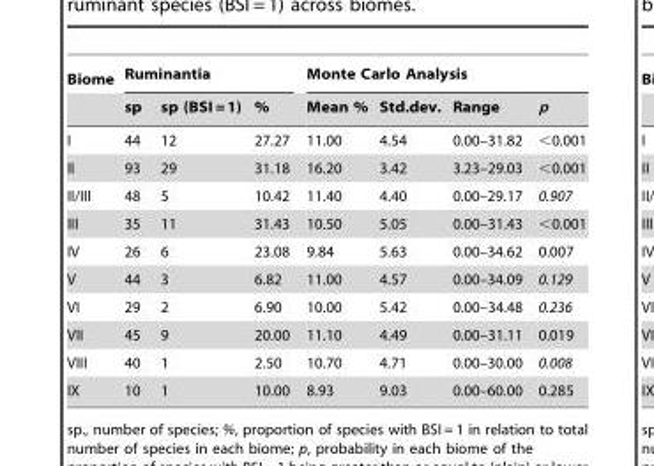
<table><thead><tr><td rowspan="2">Biome</td><td colspan="3">Ruminantia</td><td colspan="4">Monte Carlo Analysis</td></tr><tr><td>sp</td><td>sp (BSI = 1)</td><td>%</td><td>Mean %</td><td>Std.dev.</td><td>Range</td><td>p</td></tr></thead><tbody><tr><td>I</td><td>44</td><td>12</td><td>27.27</td><td>11.00</td><td>4.54</td><td>0.00–31.82</td><td>&lt;0.001</td></tr><tr><td>II</td><td>93</td><td>29</td><td>31.18</td><td>16.20</td><td>3.42</td><td>3.23–29.03</td><td>&lt;0.001</td></tr><tr><td>II/III</td><td>48</td><td>5</td><td>10.42</td><td>11.40</td><td>4.40</td><td>0.00–29.17</td><td>0.907</td></tr><tr><td>III</td><td>35</td><td>11</td><td>31.43</td><td>10.50</td><td>5.05</td><td>0.00–31.43</td><td>&lt;0.001</td></tr><tr><td>IV</td><td>26</td><td>6</td><td>23.08</td><td>9.84</td><td>5.63</td><td>0.00–34.62</td><td>0.007</td></tr><tr><td>V</td><td>44</td><td>3</td><td>6.82</td><td>11.00</td><td>4.57</td><td>0.00–34.09</td><td>0.129</td></tr><tr><td>VI</td><td>29</td><td>2</td><td>6.90</td><td>10.00</td><td>5.42</td><td>0.00–34.48</td><td>0.236</td></tr><tr><td>VII</td><td>45</td><td>9</td><td>20.00</td><td>11.10</td><td>4.49</td><td>0.00–31.11</td><td>0.019</td></tr><tr><td>VIII</td><td>40</td><td>1</td><td>2.50</td><td>10.70</td><td>4.71</td><td>0.00–30.00</td><td>0.008</td></tr><tr><td>IX</td><td>10</td><td>1</td><td>10.00</td><td>8.93</td><td>9.03</td><td>0.00–60.00</td><td>0.285</td></tr></tbody></table>